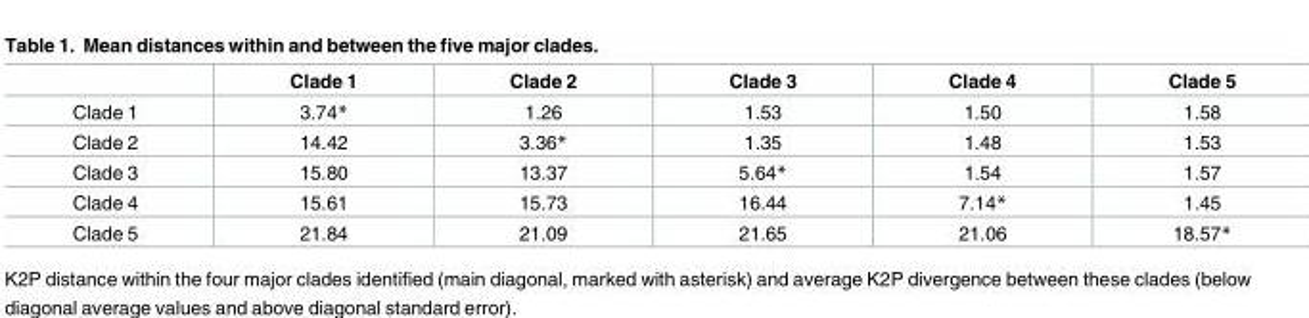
<table><thead><tr><td></td><td>Clade 1</td><td>Clade 2</td><td>Clade 3</td><td>Clade 4</td><td>Clade 5</td></tr></thead><tbody><tr><td>Clade 1</td><td>3.74*</td><td>1.26</td><td>1.53</td><td>1.50</td><td>1.58</td></tr><tr><td>Clade 2</td><td>14.42</td><td>3.36*</td><td>1.35</td><td>1.48</td><td>1.53</td></tr><tr><td>Clade 3</td><td>15.80</td><td>13.37</td><td>5.64*</td><td>1.54</td><td>1.57</td></tr><tr><td>Clade 4</td><td>15.61</td><td>15.73</td><td>16.44</td><td>7.14*</td><td>1.45</td></tr><tr><td>Clade 5</td><td>21.84</td><td>21.09</td><td>21.65</td><td>21.06</td><td>18.57*</td></tr></tbody></table>